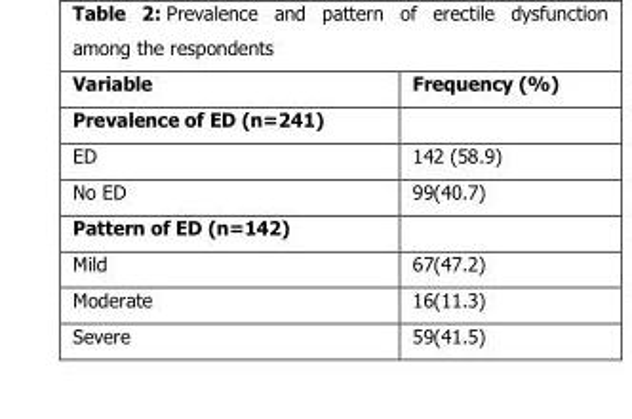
<table><thead><tr><td>Variable</td><td>Frequency (%)</td></tr></thead><tbody><tr><td colspan="2">Prevalence of ED (n=241)</td></tr><tr><td>ED</td><td>142 (58.9)</td></tr><tr><td>No ED</td><td>99(40.7)</td></tr><tr><td colspan="2">Pattern of ED (n=142)</td></tr><tr><td>Mild</td><td>67(47.2)</td></tr><tr><td>Moderate</td><td>16(11.3)</td></tr><tr><td>Severe</td><td>59(41.5)</td></tr></tbody></table>